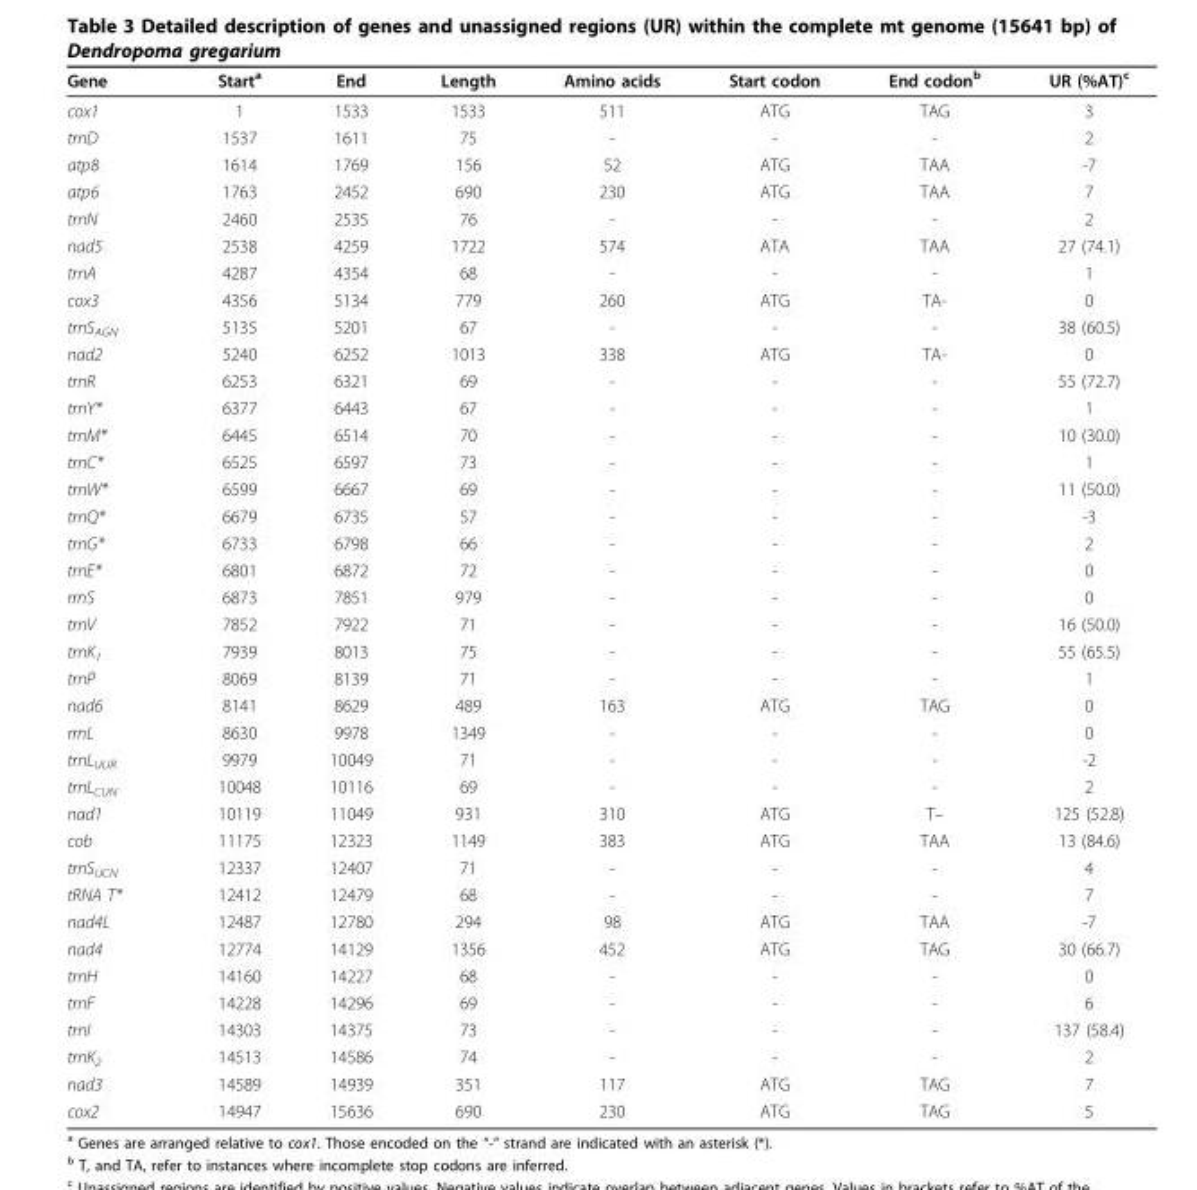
<table><thead><tr><td>Gene</td><td>Start<sup>a</sup></td><td>End</td><td>Length</td><td>Amino acids</td><td>Start codon</td><td>End codon<sup>b</sup></td><td>UR (%AT)<sup>c</sup></td></tr></thead><tbody><tr><td>cox1</td><td>1</td><td>1533</td><td>1533</td><td>511</td><td>ATG</td><td>TAG</td><td>3</td></tr><tr><td>trnD</td><td>1537</td><td>1611</td><td>75</td><td>-</td><td>-</td><td>-</td><td>2</td></tr><tr><td>atp8</td><td>1614</td><td>1769</td><td>156</td><td>52</td><td>ATG</td><td>TAA</td><td>-7</td></tr><tr><td>atp6</td><td>1763</td><td>2452</td><td>690</td><td>230</td><td>ATG</td><td>TAA</td><td>7</td></tr><tr><td>trnN</td><td>2460</td><td>2535</td><td>76</td><td>-</td><td>-</td><td>-</td><td>2</td></tr><tr><td>nad5</td><td>2538</td><td>4259</td><td>1722</td><td>574</td><td>ATA</td><td>TAA</td><td>27 (74.1)</td></tr><tr><td>trnA</td><td>4287</td><td>4354</td><td>68</td><td>-</td><td>-</td><td>-</td><td>1</td></tr><tr><td>cox3</td><td>4356</td><td>5134</td><td>779</td><td>260</td><td>ATG</td><td>TA-</td><td>0</td></tr><tr><td>trnS<sub>AGN</sub></td><td>5135</td><td>5201</td><td>67</td><td>-</td><td>-</td><td>-</td><td>38 (60.5)</td></tr><tr><td>nad2</td><td>5240</td><td>6252</td><td>1013</td><td>338</td><td>ATG</td><td>TA-</td><td>0</td></tr><tr><td>trnR</td><td>6253</td><td>6321</td><td>69</td><td>-</td><td>-</td><td>-</td><td>55 (72.7)</td></tr><tr><td>trnY*</td><td>6377</td><td>6443</td><td>67</td><td>-</td><td>-</td><td>-</td><td>1</td></tr><tr><td>trnM*</td><td>6445</td><td>6514</td><td>70</td><td>-</td><td>-</td><td>-</td><td>10 (30.0)</td></tr><tr><td>trnC*</td><td>6525</td><td>6597</td><td>73</td><td>-</td><td>-</td><td>-</td><td>1</td></tr><tr><td>trnW*</td><td>6599</td><td>6667</td><td>69</td><td>-</td><td>-</td><td>-</td><td>11 (50.0)</td></tr><tr><td>trnQ*</td><td>6679</td><td>6735</td><td>57</td><td>-</td><td>-</td><td>-</td><td>-3</td></tr><tr><td>trnG*</td><td>6733</td><td>6798</td><td>66</td><td>-</td><td>-</td><td>-</td><td>2</td></tr><tr><td>trnE*</td><td>6801</td><td>6872</td><td>72</td><td>-</td><td>-</td><td>-</td><td>0</td></tr><tr><td>rrnS</td><td>6873</td><td>7851</td><td>979</td><td>-</td><td>-</td><td>-</td><td>0</td></tr><tr><td>trnV</td><td>7852</td><td>7922</td><td>71</td><td>-</td><td>-</td><td>-</td><td>16 (50.0)</td></tr><tr><td>trnK<sub>1</sub></td><td>7939</td><td>8013</td><td>75</td><td>-</td><td>-</td><td>-</td><td>55 (65.5)</td></tr><tr><td>trnP</td><td>8069</td><td>8139</td><td>71</td><td>-</td><td>-</td><td>-</td><td>1</td></tr><tr><td>nad6</td><td>8141</td><td>8629</td><td>489</td><td>163</td><td>ATG</td><td>TAG</td><td>0</td></tr><tr><td>rrnL</td><td>8630</td><td>9978</td><td>1349</td><td>-</td><td>-</td><td>-</td><td>0</td></tr><tr><td>trnL<sub>UUR</sub></td><td>9979</td><td>10049</td><td>71</td><td>-</td><td>-</td><td>-</td><td>-2</td></tr><tr><td>trnL<sub>CUN</sub></td><td>10048</td><td>10116</td><td>69</td><td>-</td><td>-</td><td>-</td><td>2</td></tr><tr><td>nad1</td><td>10119</td><td>11049</td><td>931</td><td>310</td><td>ATG</td><td>T–</td><td>125 (52.8)</td></tr><tr><td>cob</td><td>11175</td><td>12323</td><td>1149</td><td>383</td><td>ATG</td><td>TAA</td><td>13 (84.6)</td></tr><tr><td>trnS<sub>UCN</sub></td><td>12337</td><td>12407</td><td>71</td><td>-</td><td>-</td><td>-</td><td>4</td></tr><tr><td>tRNA T*</td><td>12412</td><td>12479</td><td>68</td><td>-</td><td>-</td><td>-</td><td>7</td></tr><tr><td>nad4L</td><td>12487</td><td>12780</td><td>294</td><td>98</td><td>ATG</td><td>TAA</td><td>-7</td></tr><tr><td>nad4</td><td>12774</td><td>14129</td><td>1356</td><td>452</td><td>ATG</td><td>TAG</td><td>30 (66.7)</td></tr><tr><td>trnH</td><td>14160</td><td>14227</td><td>68</td><td>-</td><td>-</td><td>-</td><td>0</td></tr><tr><td>trnF</td><td>14228</td><td>14296</td><td>69</td><td>-</td><td>-</td><td>-</td><td>6</td></tr><tr><td>trnI</td><td>14303</td><td>14375</td><td>73</td><td>-</td><td>-</td><td>-</td><td>137 (58.4)</td></tr><tr><td>trnK<sub>2</sub></td><td>14513</td><td>14586</td><td>74</td><td>-</td><td>-</td><td>-</td><td>2</td></tr><tr><td>nad3</td><td>14589</td><td>14939</td><td>351</td><td>117</td><td>ATG</td><td>TAG</td><td>7</td></tr><tr><td>cox2</td><td>14947</td><td>15636</td><td>690</td><td>230</td><td>ATG</td><td>TAG</td><td>5</td></tr></tbody></table>